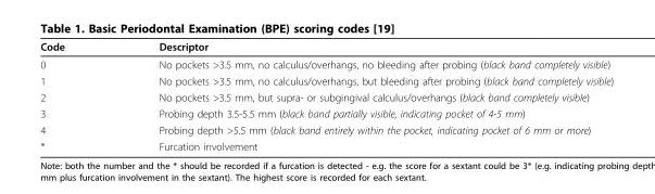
<table><thead><tr><td>Code</td><td>Descriptor</td></tr></thead><tbody><tr><td>0</td><td>No pockets &gt;3.5 mm, no calculus/overhangs, no bleeding after probing (black band completely visible)</td></tr><tr><td>1</td><td>No pockets &gt;3.5 mm, no calculus/overhangs, but bleeding after probing (black band completely visible)</td></tr><tr><td>2</td><td>No pockets &gt;3.5 mm, but supra- or subgingival calculus/overhangs (black band completely visible)</td></tr><tr><td>3</td><td>Probing depth 3.5-5.5 mm (black band partially visible, indicating pocket of 4-5 mm)</td></tr><tr><td>4</td><td>Probing depth &gt;5.5 mm (black band entirely within the pocket, indicating pocket of 6 mm or more)</td></tr><tr><td>*</td><td>Furcation involvement</td></tr></tbody></table>